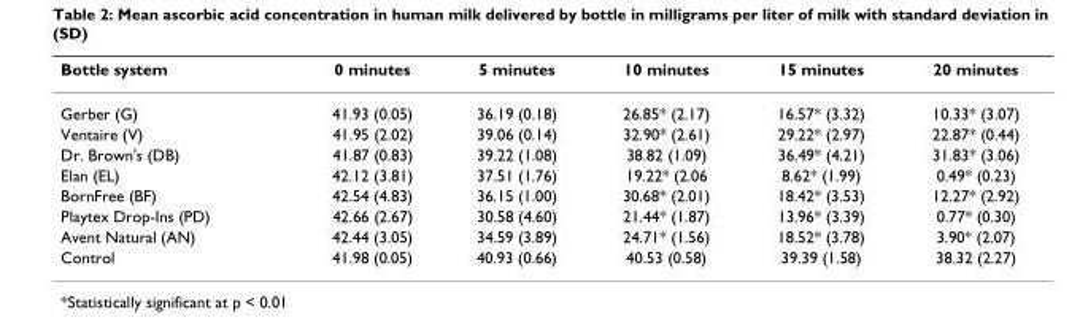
<table><thead><tr><td>Bottle system</td><td>0 minutes</td><td>5 minutes</td><td>10 minutes</td><td>15 minutes</td><td>20 minutes</td></tr></thead><tbody><tr><td>Gerber (G)</td><td>41.93 (0.05)</td><td>36.19 (0.18)</td><td>26.85* (2.17)</td><td>16.57* (3.32)</td><td>10.33* (3.07)</td></tr><tr><td>Ventaire (V)</td><td>41.95 (2.02)</td><td>39.06 (0.14)</td><td>32.90* (2.61)</td><td>29.22* (2.97)</td><td>22.87* (0.44)</td></tr><tr><td>Dr. Brown&#x27;s (DB)</td><td>41.87 (0.83)</td><td>39.22 (1.08)</td><td>38.82 (1.09)</td><td>36.49* (4.21)</td><td>31.83* (3.06)</td></tr><tr><td>Elan (EL)</td><td>42.12 (3.81)</td><td>37.51 (1.76)</td><td>19.22* (2.06</td><td>8.62* (1.99)</td><td>0.49* (0.23)</td></tr><tr><td>BornFree (BF)</td><td>42.54 (4.83)</td><td>36.15 (1.00)</td><td>30.68* (2.01)</td><td>18.42* (3.53)</td><td>12.27* (2.92)</td></tr><tr><td>Playtex Drop-Ins (PD)</td><td>42.66 (2.67)</td><td>30.58 (4.60)</td><td>21.44* (1.87)</td><td>13.96* (3.39)</td><td>0.77* (0.30)</td></tr><tr><td>Avent Natural (AN)</td><td>42.44 (3.05)</td><td>34.59 (3.89)</td><td>24.71* (1.56)</td><td>18.52* (3.78)</td><td>3.90* (2.07)</td></tr><tr><td>Control</td><td>41.98 (0.05)</td><td>40.93 (0.66)</td><td>40.53 (0.58)</td><td>39.39 (1.58)</td><td>38.32 (2.27)</td></tr></tbody></table>